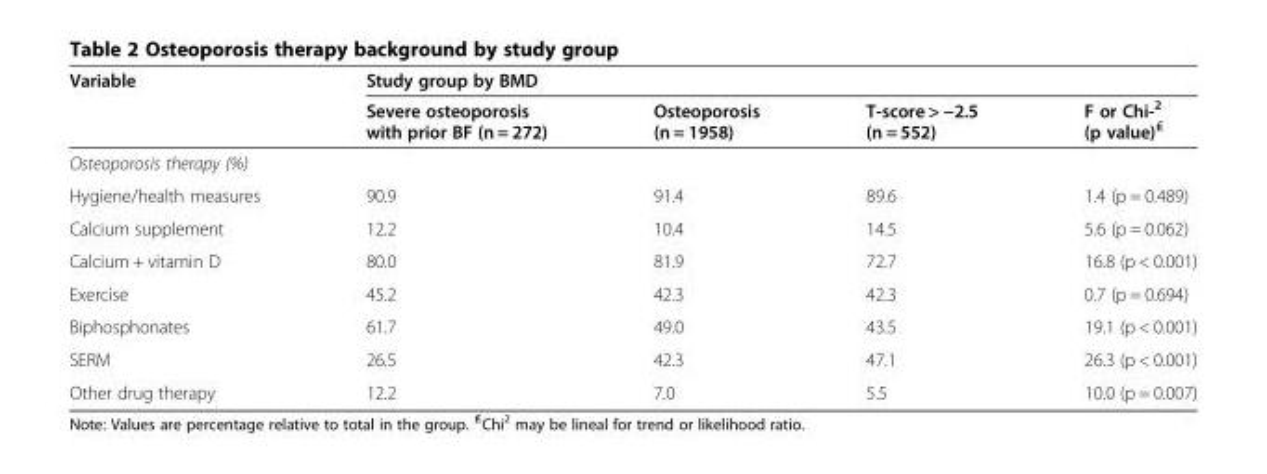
<table><thead><tr><td rowspan="2">Variable</td><td colspan="4">Study group by BMD</td></tr><tr><td>Severe osteoporosis with prior BF (n = 272)</td><td>Osteoporosis (n = 1958)</td><td>T-score &gt; −2.5 (n = 552)</td><td>F or Chi-<sup>2</sup> (p value)<sup>₤</sup></td></tr></thead><tbody><tr><td colspan="5">Osteoporosis therapy (%)</td></tr><tr><td>Hygiene/health measures</td><td>90.9</td><td>91.4</td><td>89.6</td><td>1.4 (p = 0.489)</td></tr><tr><td>Calcium supplement</td><td>12.2</td><td>10.4</td><td>14.5</td><td>5.6 (p = 0.062)</td></tr><tr><td>Calcium + vitamin D</td><td>80.0</td><td>81.9</td><td>72.7</td><td>16.8 (p &lt; 0.001)</td></tr><tr><td>Exercise</td><td>45.2</td><td>42.3</td><td>42.3</td><td>0.7 (p = 0.694)</td></tr><tr><td>Biphosphonates</td><td>61.7</td><td>49.0</td><td>43.5</td><td>19.1 (p &lt; 0.001)</td></tr><tr><td>SERM</td><td>26.5</td><td>42.3</td><td>47.1</td><td>26.3 (p &lt; 0.001)</td></tr><tr><td>Other drug therapy</td><td>12.2</td><td>7.0</td><td>5.5</td><td>10.0 (p = 0.007)</td></tr></tbody></table>